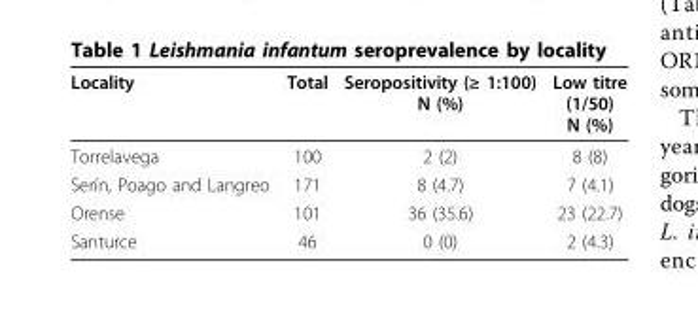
<table><thead><tr><td>Locality</td><td>Total</td><td>Seropositivity (≥ 1:100) N (%)</td><td>Low titre (1/50) N (%)</td></tr></thead><tbody><tr><td>Torrelavega</td><td>100</td><td>2 (2)</td><td>8 (8)</td></tr><tr><td>Serín, Poago and Langreo</td><td>171</td><td>8 (4.7)</td><td>7 (4.1)</td></tr><tr><td>Orense</td><td>101</td><td>36 (35.6)</td><td>23 (22.7)</td></tr><tr><td>Santurce</td><td>46</td><td>0 (0)</td><td>2 (4.3)</td></tr></tbody></table>